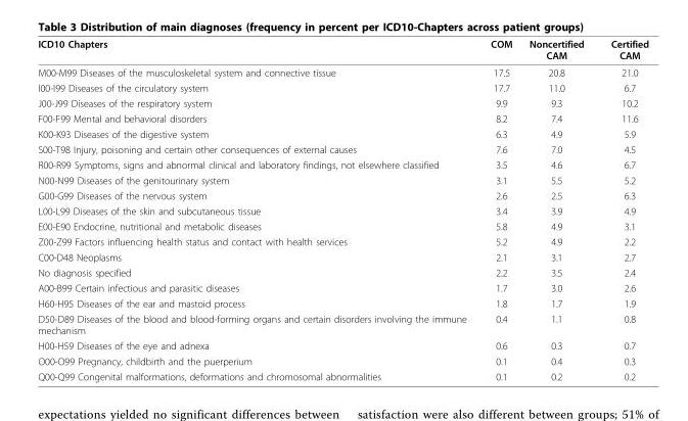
<table><thead><tr><td>ICD10 Chapters</td><td>COM</td><td>Noncertified CAM</td><td>Certified CAM</td></tr></thead><tbody><tr><td>M00-M99 Diseases of the musculoskeletal system and connective tissue</td><td>17.5</td><td>20.8</td><td>21.0</td></tr><tr><td>I00-I99 Diseases of the circulatory system</td><td>17.7</td><td>11.0</td><td>6.7</td></tr><tr><td>J00-J99 Diseases of the respiratory system</td><td>9.9</td><td>9.3</td><td>10.2</td></tr><tr><td>F00-F99 Mental and behavioral disorders</td><td>8.2</td><td>7.4</td><td>11.6</td></tr><tr><td>K00-K93 Diseases of the digestive system</td><td>6.3</td><td>4.9</td><td>5.9</td></tr><tr><td>S00-T98 Injury, poisoning and certain other consequences of external causes</td><td>7.6</td><td>7.0</td><td>4.5</td></tr><tr><td>R00-R99 Symptoms, signs and abnormal clinical and laboratory findings, not elsewhere classified</td><td>3.5</td><td>4.6</td><td>6.7</td></tr><tr><td>N00-N99 Diseases of the genitourinary system</td><td>3.1</td><td>5.5</td><td>5.2</td></tr><tr><td>G00-G99 Diseases of the nervous system</td><td>2.6</td><td>2.5</td><td>6.3</td></tr><tr><td>L00-L99 Diseases of the skin and subcutaneous tissue</td><td>3.4</td><td>3.9</td><td>4.9</td></tr><tr><td>E00-E90 Endocrine, nutritional and metabolic diseases</td><td>5.8</td><td>4.9</td><td>3.1</td></tr><tr><td>Z00-Z99 Factors influencing health status and contact with health services</td><td>5.2</td><td>4.9</td><td>2.2</td></tr><tr><td>C00-D48 Neoplasms</td><td>2.1</td><td>3.1</td><td>2.7</td></tr><tr><td>No diagnosis specified</td><td>2.2</td><td>3.5</td><td>2.4</td></tr><tr><td>A00-B99 Certain infectious and parasitic diseases</td><td>1.7</td><td>3.0</td><td>2.6</td></tr><tr><td>H60-H95 Diseases of the ear and mastoid process</td><td>1.8</td><td>1.7</td><td>1.9</td></tr><tr><td>D50-D89 Diseases of the blood and blood-forming organs and certain disorders involving the immune mechanism</td><td>0.4</td><td>1.1</td><td>0.8</td></tr><tr><td>H00-H59 Diseases of the eye and adnexa</td><td>0.6</td><td>0.3</td><td>0.7</td></tr><tr><td>O00-O99 Pregnancy, childbirth and the puerperium</td><td>0.1</td><td>0.4</td><td>0.3</td></tr><tr><td>Q00-Q99 Congenital malformations, deformations and chromosomal abnormalities</td><td>0.1</td><td>0.2</td><td>0.2</td></tr></tbody></table>